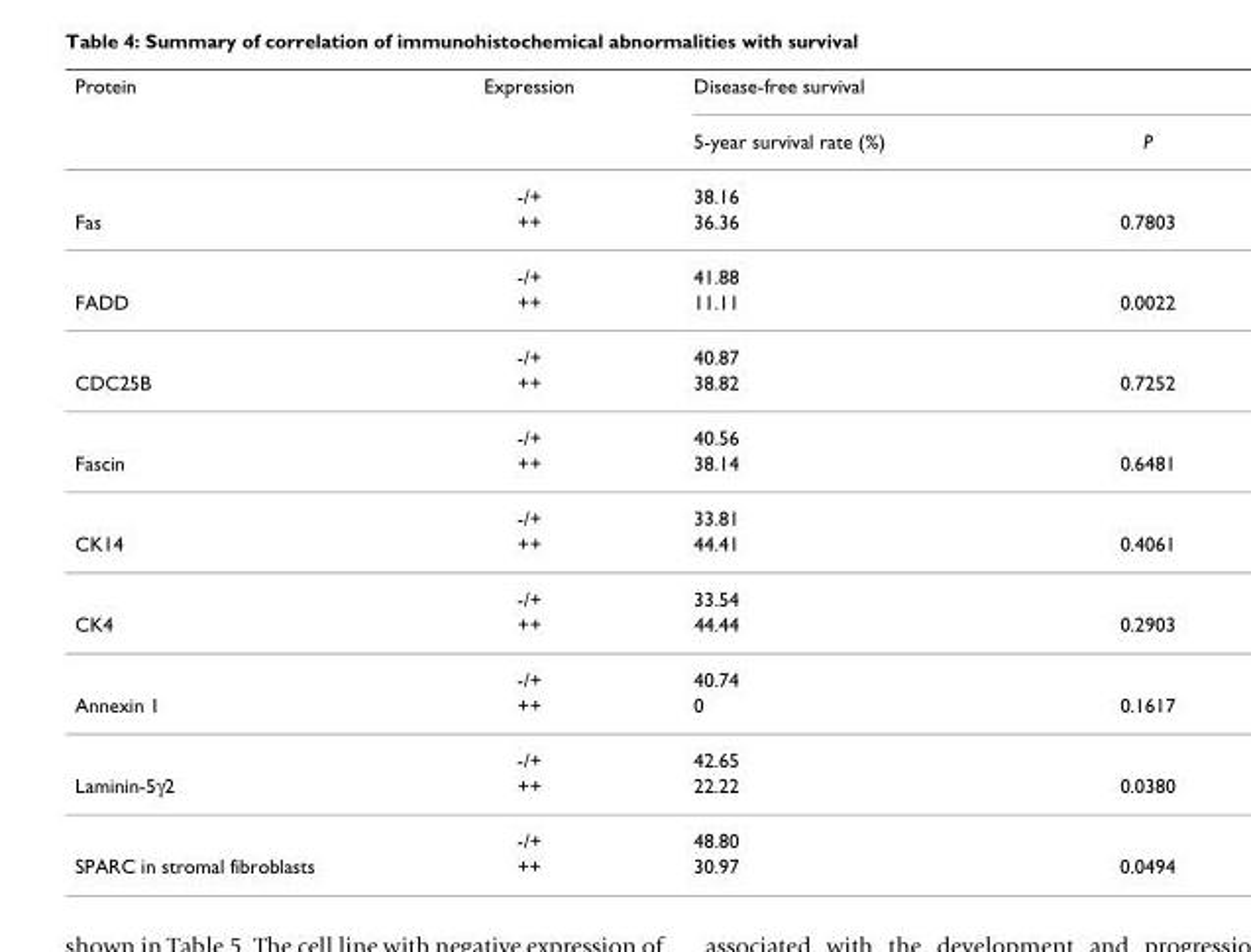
<table><thead><tr><td rowspan="2">Protein</td><td rowspan="2">Expression</td><td colspan="2">Disease-free survival</td></tr><tr><td>5-year survival rate (%)</td><td>P</td></tr></thead><tbody><tr><td></td><td>-/+</td><td>38.16</td><td></td></tr><tr><td rowspan="2">Fas</td><td>++</td><td>36.36</td><td>0.7803</td></tr><tr><td>-/+</td><td>41.88</td><td></td></tr><tr><td rowspan="2">FADD</td><td>++</td><td>11.11</td><td>0.0022</td></tr><tr><td>-/+</td><td>40.87</td><td></td></tr><tr><td rowspan="2">CDC25B</td><td>++</td><td>38.82</td><td>0.7252</td></tr><tr><td>-/+</td><td>40.56</td><td></td></tr><tr><td rowspan="2">Fascin</td><td>++</td><td>38.14</td><td>0.6481</td></tr><tr><td>-/+</td><td>33.81</td><td></td></tr><tr><td rowspan="2">CK14</td><td>++</td><td>44.41</td><td>0.4061</td></tr><tr><td>-/+</td><td>33.54</td><td></td></tr><tr><td rowspan="2">CK4</td><td>++</td><td>44.44</td><td>0.2903</td></tr><tr><td>-/+</td><td>40.74</td><td></td></tr><tr><td rowspan="2">Annexin 1</td><td>++</td><td>0</td><td>0.1617</td></tr><tr><td>-/+</td><td>42.65</td><td></td></tr><tr><td rowspan="2">Laminin-5γ2</td><td>++</td><td>22.22</td><td>0.0380</td></tr><tr><td>-/+</td><td>48.80</td><td></td></tr><tr><td>SPARC in stromal fibroblasts</td><td>++</td><td>30.97</td><td>0.0494</td></tr></tbody></table>